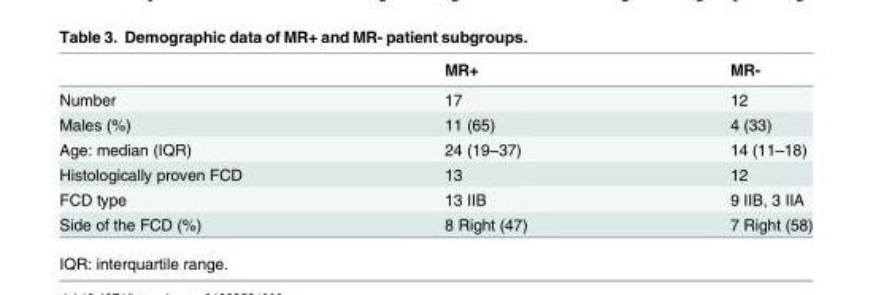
<table><thead><tr><td></td><td>MR+</td><td>MR-</td></tr></thead><tbody><tr><td>Number</td><td>17</td><td>12</td></tr><tr><td>Males (%)</td><td>11 (65)</td><td>4 (33)</td></tr><tr><td>Age: median (IQR)</td><td>24 (19–37)</td><td>14 (11–18)</td></tr><tr><td>Histologically proven FCD</td><td>13</td><td>12</td></tr><tr><td>FCD type</td><td>13 IIB</td><td>9 IIB, 3 IIA</td></tr><tr><td>Side of the FCD (%)</td><td>8 Right (47)</td><td>7 Right (58)</td></tr></tbody></table>